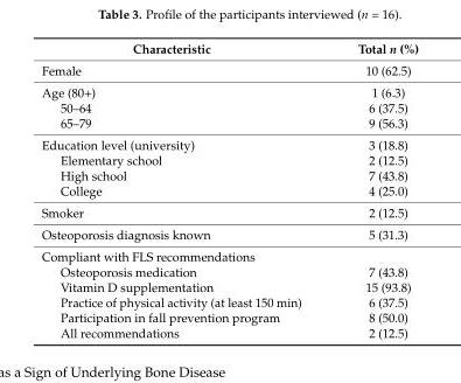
<table><thead><tr><td>Characteristic</td><td>Total n (%)</td></tr></thead><tbody><tr><td>Female</td><td>10 (62.5)</td></tr><tr><td>Age (80+)</td><td>1 (6.3)</td></tr><tr><td>50–64</td><td>6 (37.5)</td></tr><tr><td>65–79</td><td>9 (56.3)</td></tr><tr><td>Education level (university)</td><td>3 (18.8)</td></tr><tr><td>Elementary school</td><td>2 (12.5)</td></tr><tr><td>High school</td><td>7 (43.8)</td></tr><tr><td>College</td><td>4 (25.0)</td></tr><tr><td>Smoker</td><td>2 (12.5)</td></tr><tr><td>Osteoporosis diagnosis known</td><td>5 (31.3)</td></tr><tr><td colspan="2">Compliant with FLS recommendations</td></tr><tr><td>Osteoporosis medication</td><td>7 (43.8)</td></tr><tr><td>Vitamin D supplementation</td><td>15 (93.8)</td></tr><tr><td>Practice of physical activity (at least 150 min)</td><td>6 (37.5)</td></tr><tr><td>Participation in fall prevention program</td><td>8 (50.0)</td></tr><tr><td>All recommendations</td><td>2 (12.5)</td></tr></tbody></table>